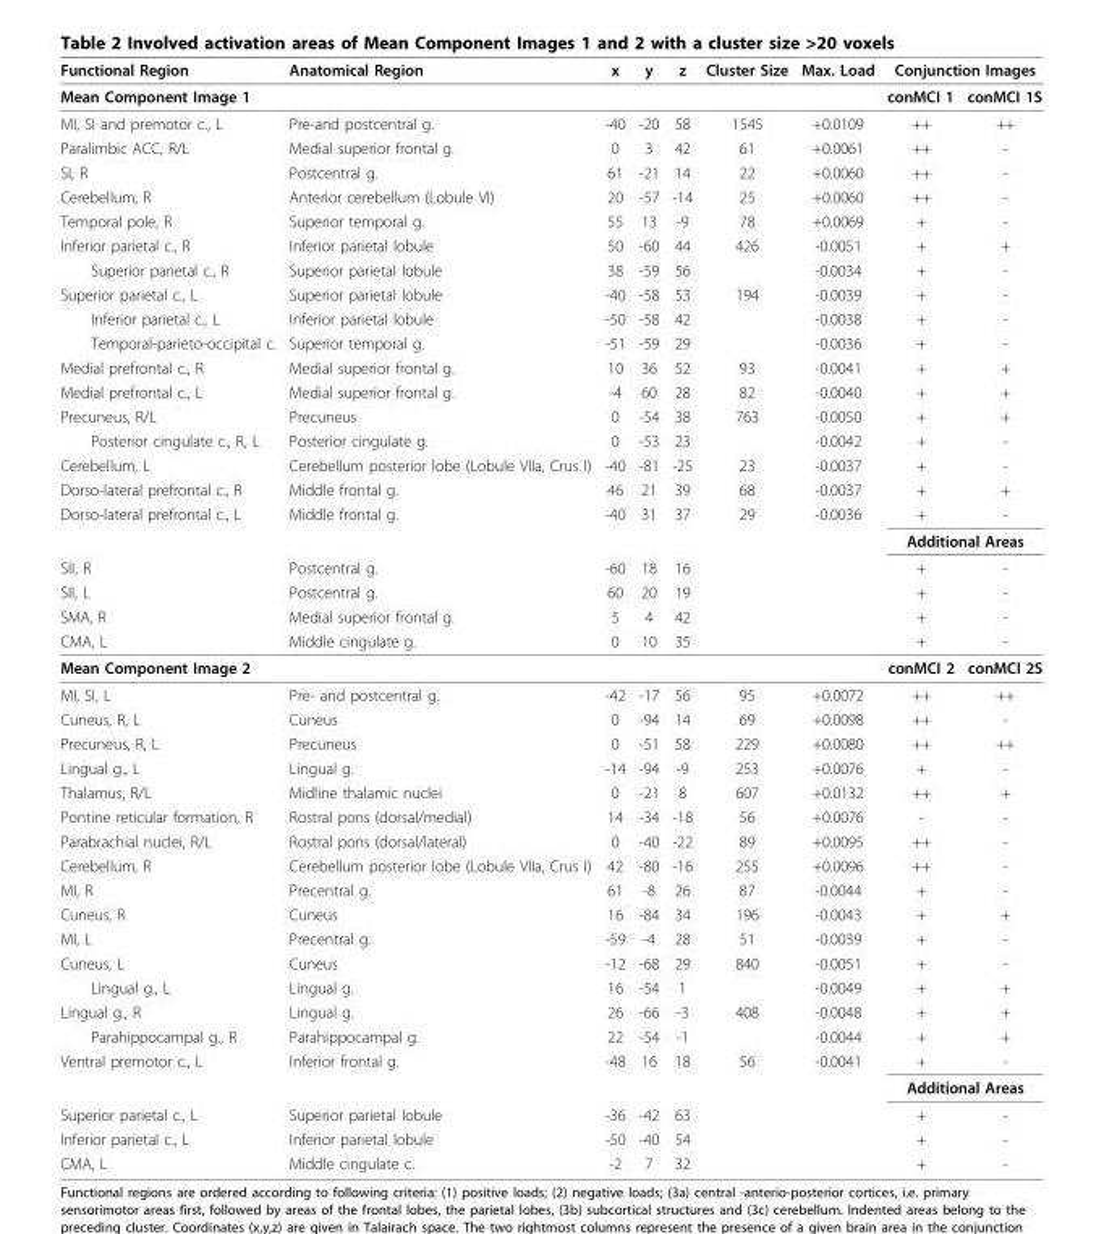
<table><thead><tr><td rowspan="2">Functional Region Mean Component Image 1</td><td rowspan="2">Anatomical Region</td><td rowspan="2">x</td><td rowspan="2">y</td><td rowspan="2">z</td><td rowspan="2">Cluster Size</td><td rowspan="2">Max. Load</td><td colspan="2">Conjunction Images</td></tr><tr><td>conMCI 1</td><td>conMCI 1S</td></tr></thead><tbody><tr><td>MI, SI and premotor c., L</td><td>Pre-and postcentral g.</td><td>-40</td><td>-20</td><td>58</td><td>1545</td><td>+0.0109</td><td>++</td><td>++</td></tr><tr><td>Paralimbic ACC, R/L</td><td>Medial superior frontal g.</td><td>0</td><td>3</td><td>42</td><td>61</td><td>+0.0061</td><td>++</td><td>-</td></tr><tr><td>SI, R</td><td>Postcentral g.</td><td>61</td><td>-21</td><td>14</td><td>22</td><td>+0.0060</td><td>++</td><td>-</td></tr><tr><td>Cerebellum, R</td><td>Anterior cerebellum (Lobule VI)</td><td>20</td><td>-57</td><td>-14</td><td>25</td><td>+0.0060</td><td>++</td><td>-</td></tr><tr><td>Temporal pole, R</td><td>Superior temporal g.</td><td>55</td><td>13</td><td>-9</td><td>78</td><td>+0.0069</td><td>+</td><td>-</td></tr><tr><td>Inferior parietal c., R</td><td>Inferior parietal lobule</td><td>50</td><td>-60</td><td>44</td><td>426</td><td>-0.0051</td><td>+</td><td>+</td></tr><tr><td>Superior parietal c., R</td><td>Superior parietal lobule</td><td>38</td><td>-59</td><td>56</td><td></td><td>-0.0034</td><td>+</td><td>-</td></tr><tr><td>Superior parietal c., L</td><td>Superior parietal lobule</td><td>-40</td><td>-58</td><td>53</td><td>194</td><td>-0.0039</td><td>+</td><td>-</td></tr><tr><td>Inferior parietal c., L</td><td>Inferior parietal lobule</td><td>-50</td><td>-58</td><td>42</td><td></td><td>-0.0038</td><td>+</td><td>-</td></tr><tr><td>Temporal-parieto-occipital c.</td><td>Superior temporal g.</td><td>-51</td><td>-59</td><td>29</td><td></td><td>-0.0036</td><td>+</td><td>-</td></tr><tr><td>Medial prefrontal c., R</td><td>Medial superior frontal g.</td><td>10</td><td>36</td><td>52</td><td>93</td><td>-0.0041</td><td>+</td><td>+</td></tr><tr><td>Medial prefrontal c., L</td><td>Medial superior frontal g.</td><td>-4</td><td>60</td><td>28</td><td>82</td><td>-0.0040</td><td>+</td><td>+</td></tr><tr><td>Precuneus, R/L</td><td>Precuneus</td><td>0</td><td>-54</td><td>38</td><td>763</td><td>-0.0050</td><td>+</td><td>+</td></tr><tr><td>Posterior cingulate c., R, L</td><td>Posterior cingulate g.</td><td>0</td><td>-53</td><td>23</td><td></td><td>-0.0042</td><td>+</td><td>-</td></tr><tr><td>Cerebellum, L</td><td>Cerebellum posterior lobe (Lobule VIIa, Crus I)</td><td>-40</td><td>-81</td><td>-25</td><td>23</td><td>-0.0037</td><td>+</td><td>-</td></tr><tr><td>Dorso-lateral prefrontal c., R</td><td>Middle frontal g.</td><td>46</td><td>21</td><td>39</td><td>68</td><td>-0.0037</td><td>+</td><td>+</td></tr><tr><td rowspan="2">Dorso-lateral prefrontal c., L</td><td>Middle frontal g.</td><td>-40</td><td>31</td><td>37</td><td>29</td><td>-0.0036</td><td>+</td><td>-</td></tr><tr><td></td><td></td><td></td><td></td><td></td><td></td><td colspan="2">Additional Areas</td></tr><tr><td>SII, R</td><td>Postcentral g.</td><td>-60</td><td>18</td><td>16</td><td></td><td></td><td>+</td><td>-</td></tr><tr><td>SII, L</td><td>Postcentral g.</td><td>60</td><td>20</td><td>19</td><td></td><td></td><td>+</td><td>-</td></tr><tr><td>SMA, R</td><td>Medial superior frontal g.</td><td>5</td><td>4</td><td>42</td><td></td><td></td><td>+</td><td>-</td></tr><tr><td>CMA, L</td><td>Middle cingulate g.</td><td>0</td><td>10</td><td>35</td><td></td><td></td><td>+</td><td>-</td></tr><tr><td>Mean Component Image 2</td><td></td><td></td><td></td><td></td><td></td><td></td><td>conMCI 2</td><td>conMCI 2S</td></tr><tr><td>MI, SI, L</td><td>Pre- and postcentral g.</td><td>-42</td><td>-17</td><td>56</td><td>95</td><td>+0.0072</td><td>++</td><td>++</td></tr><tr><td>Cuneus, R, L</td><td>Cuneus</td><td>0</td><td>-94</td><td>14</td><td>69</td><td>+0.0098</td><td>++</td><td>-</td></tr><tr><td>Precuneus, R, L</td><td>Precuneus</td><td>0</td><td>-51</td><td>58</td><td>229</td><td>+0.0080</td><td>++</td><td>++</td></tr><tr><td>Lingual g., L</td><td>Lingual g.</td><td>-14</td><td>-94</td><td>-9</td><td>253</td><td>+0.0076</td><td>+</td><td>-</td></tr><tr><td>Thalamus, R/L</td><td>Midline thalamic nuclei</td><td>0</td><td>-21</td><td>8</td><td>607</td><td>+0.0132</td><td>++</td><td>+</td></tr><tr><td>Pontine reticular formation, R</td><td>Rostral pons (dorsal/medial)</td><td>14</td><td>-34</td><td>-18</td><td>56</td><td>+0.0076</td><td>-</td><td>-</td></tr><tr><td>Parabrachial nuclei, R/L</td><td>Rostral pons (dorsal/lateral)</td><td>0</td><td>-40</td><td>-22</td><td>89</td><td>+0.0095</td><td>++</td><td>-</td></tr><tr><td>Cerebellum, R</td><td>Cerebellum posterior lobe (Lobule VIIa, Crus I)</td><td>42</td><td>-80</td><td>-16</td><td>255</td><td>+0.0096</td><td>++</td><td>-</td></tr><tr><td>MI, R</td><td>Precentral g.</td><td>61</td><td>-8</td><td>26</td><td>87</td><td>-0.0044</td><td>+</td><td>-</td></tr><tr><td>Cuneus, R</td><td>Cuneus</td><td>16</td><td>-84</td><td>34</td><td>196</td><td>-0.0043</td><td>+</td><td>+</td></tr><tr><td>MI, L</td><td>Precentral g.</td><td>-59</td><td>-4</td><td>28</td><td>51</td><td>-0.0039</td><td>+</td><td>-</td></tr><tr><td>Cuneus, L</td><td>Cuneus</td><td>-12</td><td>-68</td><td>29</td><td>840</td><td>-0.0051</td><td>+</td><td>-</td></tr><tr><td>Lingual g., L</td><td>Lingual g.</td><td>16</td><td>-54</td><td>1</td><td></td><td>-0.0049</td><td>+</td><td>+</td></tr><tr><td>Lingual g., R</td><td>Lingual g.</td><td>26</td><td>-66</td><td>-3</td><td>408</td><td>-0.0048</td><td>+</td><td>+</td></tr><tr><td>Parahippocampal g., R</td><td>Parahippocampal g.</td><td>22</td><td>-54</td><td>-1</td><td></td><td>-0.0044</td><td>+</td><td>+</td></tr><tr><td rowspan="2">Ventral premotor c., L</td><td>Inferior frontal g.</td><td>-48</td><td>16</td><td>18</td><td>56</td><td>-0.0041</td><td>+</td><td>-</td></tr><tr><td></td><td></td><td></td><td></td><td></td><td></td><td colspan="2">Additional Areas</td></tr><tr><td>Superior parietal c., L</td><td>Superior parietal lobule</td><td>-36</td><td>-42</td><td>63</td><td></td><td></td><td>+</td><td>-</td></tr><tr><td>Inferior parietal c., L</td><td>Inferior parietal lobule</td><td>-50</td><td>-40</td><td>54</td><td></td><td></td><td>+</td><td>-</td></tr><tr><td>CMA, L</td><td>Middle cingulate c.</td><td>-2</td><td>7</td><td>32</td><td></td><td></td><td>+</td><td>-</td></tr></tbody></table>